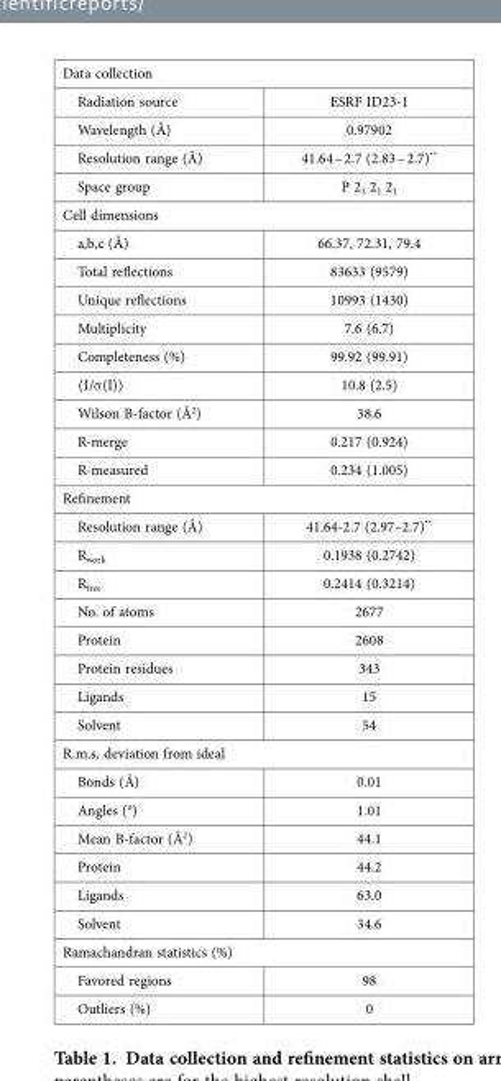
<table><tbody><tr><td colspan="2">Data collection</td></tr><tr><td>Radiation source</td><td>ESRF ID23-1</td></tr><tr><td>Wavelength (Å)</td><td>0.97902</td></tr><tr><td>Resolution range (Å)</td><td>41.64 – 2.7 (2.83 – 2.7)**</td></tr><tr><td>Space group</td><td>P 2<sub>1</sub> 2<sub>1</sub> 2<sub>1</sub></td></tr><tr><td colspan="2">Cell dimensions</td></tr><tr><td>a,b,c (Å)</td><td>66.37, 72.31, 79.4</td></tr><tr><td>Total reflections</td><td>83633 (9579)</td></tr><tr><td>Unique reflections</td><td>10993 (1430)</td></tr><tr><td>Multiplicity</td><td>7.6 (6.7)</td></tr><tr><td>Completeness (%)</td><td>99.92 (99.91)</td></tr><tr><td>〈 I/σ (I)〉</td><td>10.8 (2.5)</td></tr><tr><td>Wilson B-factor (Å<sup>2</sup>)</td><td>38.6</td></tr><tr><td>R-merge</td><td>0.217 (0.924)</td></tr><tr><td>R-measured</td><td>0.234 (1.005)</td></tr><tr><td colspan="2">Refinement</td></tr><tr><td>Resolution range (Å)</td><td>41.64-2.7 (2.97–2.7)**</td></tr><tr><td>R<sub>work</sub></td><td>0.1938 (0.2742)</td></tr><tr><td>R<sub>free</sub></td><td>0.2414 (0.3214)</td></tr><tr><td>No. of atoms</td><td>2677</td></tr><tr><td>Protein</td><td>2608</td></tr><tr><td>Protein residues</td><td>343</td></tr><tr><td>Ligands</td><td>15</td></tr><tr><td>Solvent</td><td>54</td></tr><tr><td colspan="2">R.m.s. deviation from ideal</td></tr><tr><td>Bonds (Å)</td><td>0.01</td></tr><tr><td>Angles (°)</td><td>1.01</td></tr><tr><td>Mean B-factor (Å<sup>2</sup>)</td><td>44.1</td></tr><tr><td>Protein</td><td>44.2</td></tr><tr><td>Ligands</td><td>63.0</td></tr><tr><td>Solvent</td><td>34.6</td></tr><tr><td colspan="2">Ramachandran statistics (%)</td></tr><tr><td>Favored regions</td><td>98</td></tr><tr><td>Outliers (%)</td><td>0</td></tr></tbody></table>